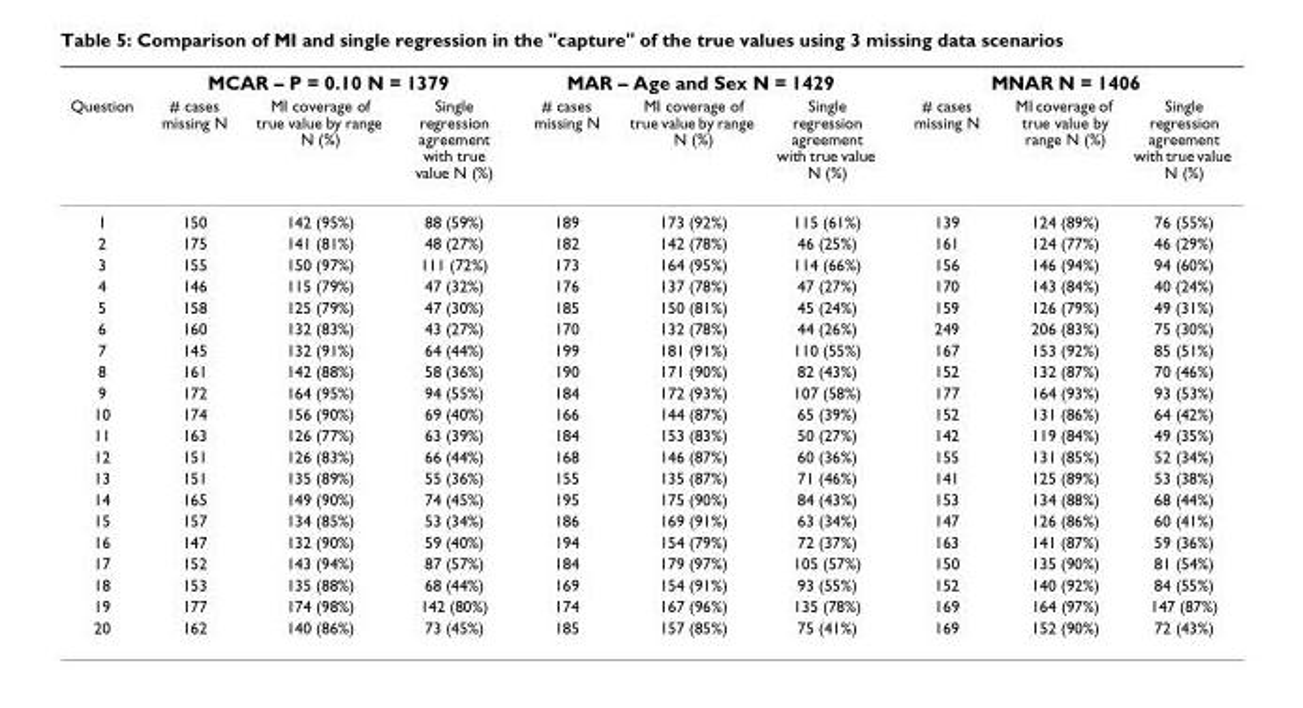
<table><thead><tr><td rowspan="2">Question</td><td colspan="3">MCAR – P = 0.10 N = 1379</td><td colspan="3">MAR – Age and Sex N = 1429</td><td colspan="3">MNAR N = 1406</td></tr><tr><td># cases missing N</td><td>MI coverage of true value by range N (%)</td><td>Single regression agreement with true value N (%)</td><td># cases missing N</td><td>MI coverage of true value by range N (%)</td><td>Single regression agreement with true value N (%)</td><td># cases missing N</td><td>MI coverage of true value by range N (%)</td><td>Single regression agreement with true value N (%)</td></tr></thead><tbody><tr><td>1</td><td>150</td><td>142 (95%)</td><td>88 (59%)</td><td>189</td><td>173 (92%)</td><td>115 (61%)</td><td>139</td><td>124 (89%)</td><td>76 (55%)</td></tr><tr><td>2</td><td>175</td><td>141 (81%)</td><td>48 (27%)</td><td>182</td><td>142 (78%)</td><td>46 (25%)</td><td>161</td><td>124 (77%)</td><td>46 (29%)</td></tr><tr><td>3</td><td>155</td><td>150 (97%)</td><td>111 (72%)</td><td>173</td><td>164 (95%)</td><td>114 (66%)</td><td>156</td><td>146 (94%)</td><td>94 (60%)</td></tr><tr><td>4</td><td>146</td><td>115 (79%)</td><td>47 (32%)</td><td>176</td><td>137 (78%)</td><td>47 (27%)</td><td>170</td><td>143 (84%)</td><td>40 (24%)</td></tr><tr><td>5</td><td>158</td><td>125 (79%)</td><td>47 (30%)</td><td>185</td><td>150 (81%)</td><td>45 (24%)</td><td>159</td><td>126 (79%)</td><td>49 (31%)</td></tr><tr><td>6</td><td>160</td><td>132 (83%)</td><td>43 (27%)</td><td>170</td><td>132 (78%)</td><td>44 (26%)</td><td>249</td><td>206 (83%)</td><td>75 (30%)</td></tr><tr><td>7</td><td>145</td><td>132 (91%)</td><td>64 (44%)</td><td>199</td><td>181 (91%)</td><td>110 (55%)</td><td>167</td><td>153 (92%)</td><td>85 (51%)</td></tr><tr><td>8</td><td>161</td><td>142 (88%)</td><td>58 (36%)</td><td>190</td><td>171 (90%)</td><td>82 (43%)</td><td>152</td><td>132 (87%)</td><td>70 (46%)</td></tr><tr><td>9</td><td>172</td><td>164 (95%)</td><td>94 (55%)</td><td>184</td><td>172 (93%)</td><td>107 (58%)</td><td>177</td><td>164 (93%)</td><td>93 (53%)</td></tr><tr><td>10</td><td>174</td><td>156 (90%)</td><td>69 (40%)</td><td>166</td><td>144 (87%)</td><td>65 (39%)</td><td>152</td><td>131 (86%)</td><td>64 (42%)</td></tr><tr><td>11</td><td>163</td><td>126 (77%)</td><td>63 (39%)</td><td>184</td><td>153 (83%)</td><td>50 (27%)</td><td>142</td><td>119 (84%)</td><td>49 (35%)</td></tr><tr><td>12</td><td>151</td><td>126 (83%)</td><td>66 (44%)</td><td>168</td><td>146 (87%)</td><td>60 (36%)</td><td>155</td><td>131 (85%)</td><td>52 (34%)</td></tr><tr><td>13</td><td>151</td><td>135 (89%)</td><td>55 (36%)</td><td>155</td><td>135 (87%)</td><td>71 (46%)</td><td>141</td><td>125 (89%)</td><td>53 (38%)</td></tr><tr><td>14</td><td>165</td><td>149 (90%)</td><td>74 (45%)</td><td>195</td><td>175 (90%)</td><td>84 (43%)</td><td>153</td><td>134 (88%)</td><td>68 (44%)</td></tr><tr><td>15</td><td>157</td><td>134 (85%)</td><td>53 (34%)</td><td>186</td><td>169 (91%)</td><td>63 (34%)</td><td>147</td><td>126 (86%)</td><td>60 (41%)</td></tr><tr><td>16</td><td>147</td><td>132 (90%)</td><td>59 (40%)</td><td>194</td><td>154 (79%)</td><td>72 (37%)</td><td>163</td><td>141 (87%)</td><td>59 (36%)</td></tr><tr><td>17</td><td>152</td><td>143 (94%)</td><td>87 (57%)</td><td>184</td><td>179 (97%)</td><td>105 (57%)</td><td>150</td><td>135 (90%)</td><td>81 (54%)</td></tr><tr><td>18</td><td>153</td><td>135 (88%)</td><td>68 (44%)</td><td>169</td><td>154 (91%)</td><td>93 (55%)</td><td>152</td><td>140 (92%)</td><td>84 (55%)</td></tr><tr><td>19</td><td>177</td><td>174 (98%)</td><td>142 (80%)</td><td>174</td><td>167 (96%)</td><td>135 (78%)</td><td>169</td><td>164 (97%)</td><td>147 (87%)</td></tr><tr><td>20</td><td>162</td><td>140 (86%)</td><td>73 (45%)</td><td>185</td><td>157 (85%)</td><td>75 (41%)</td><td>169</td><td>152 (90%)</td><td>72 (43%)</td></tr></tbody></table>